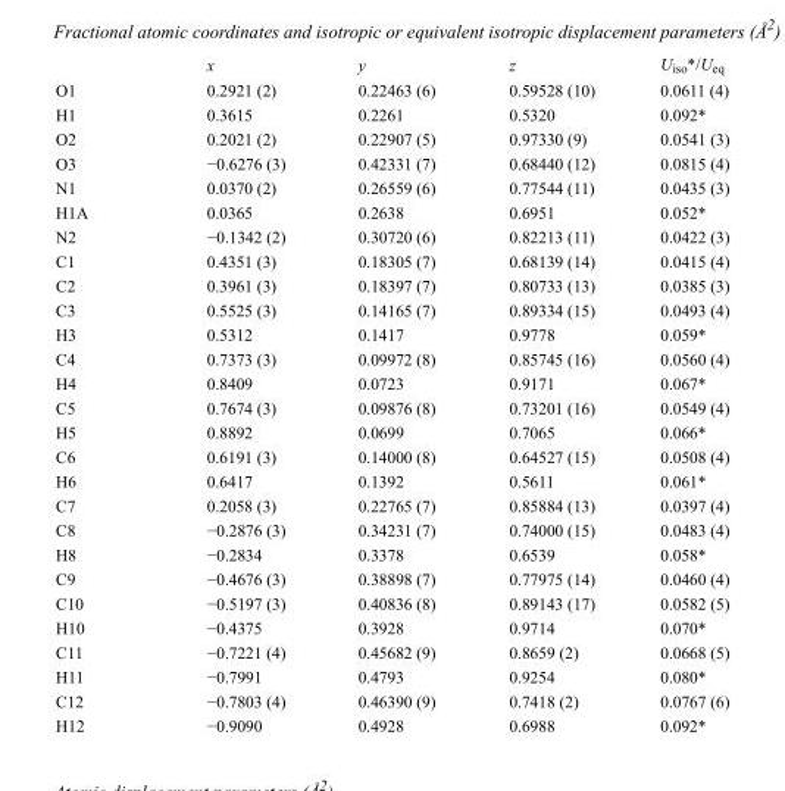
<table><thead><tr><td></td><td>x</td><td>y</td><td>z</td><td>U<sub>iso</sub>*/U<sub>eq</sub></td></tr></thead><tbody><tr><td>O1</td><td>0.2921 (2)</td><td>0.22463 (6)</td><td>0.59528 (10)</td><td>0.0611 (4)</td></tr><tr><td>H1</td><td>0.3615</td><td>0.2261</td><td>0.5320</td><td>0.092*</td></tr><tr><td>O2</td><td>0.2021 (2)</td><td>0.22907 (5)</td><td>0.97330 (9)</td><td>0.0541 (3)</td></tr><tr><td>O3</td><td>−0.6276 (3)</td><td>0.42331 (7)</td><td>0.68440 (12)</td><td>0.0815 (4)</td></tr><tr><td>N1</td><td>0.0370 (2)</td><td>0.26559 (6)</td><td>0.77544 (11)</td><td>0.0435 (3)</td></tr><tr><td>H1A</td><td>0.0365</td><td>0.2638</td><td>0.6951</td><td>0.052*</td></tr><tr><td>N2</td><td>−0.1342 (2)</td><td>0.30720 (6)</td><td>0.82213 (11)</td><td>0.0422 (3)</td></tr><tr><td>C1</td><td>0.4351 (3)</td><td>0.18305 (7)</td><td>0.68139 (14)</td><td>0.0415 (4)</td></tr><tr><td>C2</td><td>0.3961 (3)</td><td>0.18397 (7)</td><td>0.80733 (13)</td><td>0.0385 (3)</td></tr><tr><td>C3</td><td>0.5525 (3)</td><td>0.14165 (7)</td><td>0.89334 (15)</td><td>0.0493 (4)</td></tr><tr><td>H3</td><td>0.5312</td><td>0.1417</td><td>0.9778</td><td>0.059*</td></tr><tr><td>C4</td><td>0.7373 (3)</td><td>0.09972 (8)</td><td>0.85745 (16)</td><td>0.0560 (4)</td></tr><tr><td>H4</td><td>0.8409</td><td>0.0723</td><td>0.9171</td><td>0.067*</td></tr><tr><td>C5</td><td>0.7674 (3)</td><td>0.09876 (8)</td><td>0.73201 (16)</td><td>0.0549 (4)</td></tr><tr><td>H5</td><td>0.8892</td><td>0.0699</td><td>0.7065</td><td>0.066*</td></tr><tr><td>C6</td><td>0.6191 (3)</td><td>0.14000 (8)</td><td>0.64527 (15)</td><td>0.0508 (4)</td></tr><tr><td>H6</td><td>0.6417</td><td>0.1392</td><td>0.5611</td><td>0.061*</td></tr><tr><td>C7</td><td>0.2058 (3)</td><td>0.22765 (7)</td><td>0.85884 (13)</td><td>0.0397 (4)</td></tr><tr><td>C8</td><td>−0.2876 (3)</td><td>0.34231 (7)</td><td>0.74000 (15)</td><td>0.0483 (4)</td></tr><tr><td>H8</td><td>−0.2834</td><td>0.3378</td><td>0.6539</td><td>0.058*</td></tr><tr><td>C9</td><td>−0.4676 (3)</td><td>0.38898 (7)</td><td>0.77975 (14)</td><td>0.0460 (4)</td></tr><tr><td>C10</td><td>−0.5197 (3)</td><td>0.40836 (8)</td><td>0.89143 (17)</td><td>0.0582 (5)</td></tr><tr><td>H10</td><td>−0.4375</td><td>0.3928</td><td>0.9714</td><td>0.070*</td></tr><tr><td>C11</td><td>−0.7221 (4)</td><td>0.45682 (9)</td><td>0.8659 (2)</td><td>0.0668 (5)</td></tr><tr><td>H11</td><td>−0.7991</td><td>0.4793</td><td>0.9254</td><td>0.080*</td></tr><tr><td>C12</td><td>−0.7803 (4)</td><td>0.46390 (9)</td><td>0.7418 (2)</td><td>0.0767 (6)</td></tr><tr><td>H12</td><td>−0.9090</td><td>0.4928</td><td>0.6988</td><td>0.092*</td></tr></tbody></table>